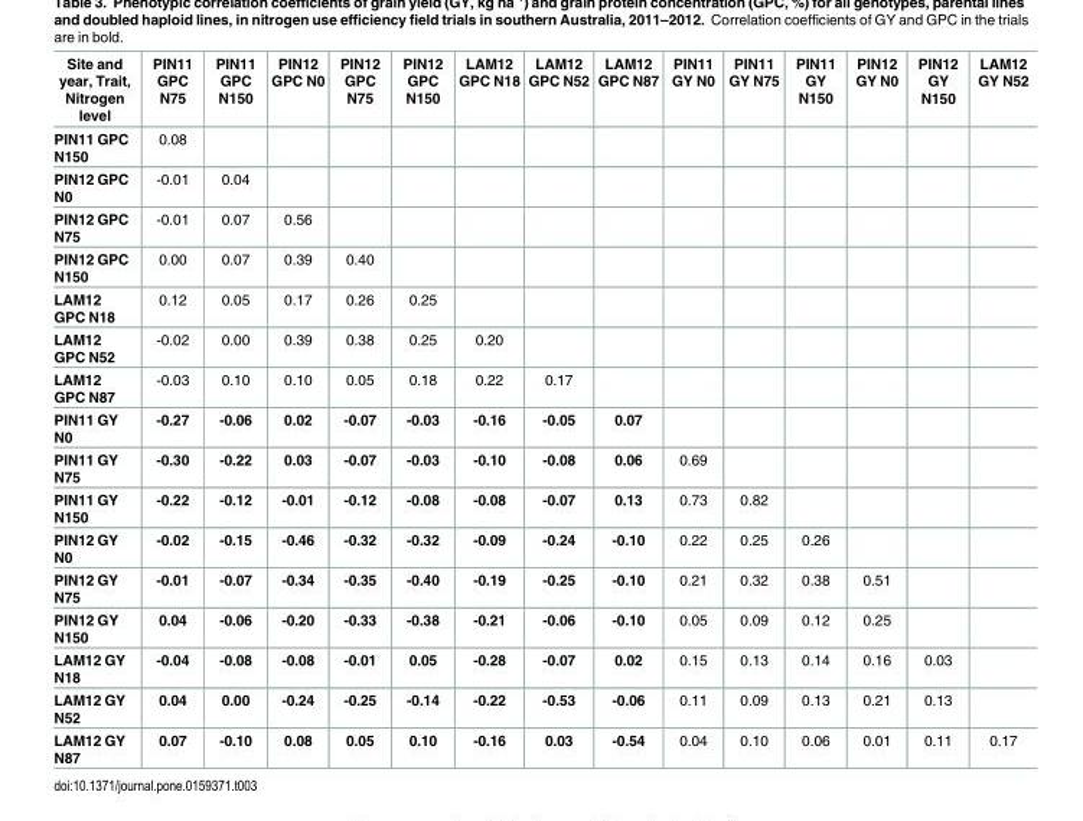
<table><thead><tr><td>Site and year, Trait, Nitrogen level</td><td>PIN11 GPC N75</td><td>PIN11 GPC N150</td><td>PIN12 GPC N0</td><td>PIN12 GPC N75</td><td>PIN12 GPC N150</td><td>LAM12 GPC N18</td><td>LAM12 GPC N52</td><td>LAM12 GPC N87</td><td>PIN11 GY N0</td><td>PIN11 GY N75</td><td>PIN11 GY N150</td><td>PIN12 GY N0</td><td>PIN12 GY N150</td><td>LAM12 GY N52</td></tr></thead><tbody><tr><td>PIN11 GPC N150</td><td>0.08</td><td></td><td></td><td></td><td></td><td></td><td></td><td></td><td></td><td></td><td></td><td></td><td></td><td></td></tr><tr><td>PIN12 GPC N0</td><td>-0.01</td><td>0.04</td><td></td><td></td><td></td><td></td><td></td><td></td><td></td><td></td><td></td><td></td><td></td><td></td></tr><tr><td>PIN12 GPC N75</td><td>-0.01</td><td>0.07</td><td>0.56</td><td></td><td></td><td></td><td></td><td></td><td></td><td></td><td></td><td></td><td></td><td></td></tr><tr><td>PIN12 GPC N150</td><td>0.00</td><td>0.07</td><td>0.39</td><td>0.40</td><td></td><td></td><td></td><td></td><td></td><td></td><td></td><td></td><td></td><td></td></tr><tr><td>LAM12 GPC N18</td><td>0.12</td><td>0.05</td><td>0.17</td><td>0.26</td><td>0.25</td><td></td><td></td><td></td><td></td><td></td><td></td><td></td><td></td><td></td></tr><tr><td>LAM12 GPC N52</td><td>-0.02</td><td>0.00</td><td>0.39</td><td>0.38</td><td>0.25</td><td>0.20</td><td></td><td></td><td></td><td></td><td></td><td></td><td></td><td></td></tr><tr><td>LAM12 GPC N87</td><td>-0.03</td><td>0.10</td><td>0.10</td><td>0.05</td><td>0.18</td><td>0.22</td><td>0.17</td><td></td><td></td><td></td><td></td><td></td><td></td><td></td></tr><tr><td>PIN11 GY N0</td><td>-0.27</td><td>-0.06</td><td>0.02</td><td>-0.07</td><td>-0.03</td><td>-0.16</td><td>-0.05</td><td>0.07</td><td></td><td></td><td></td><td></td><td></td><td></td></tr><tr><td>PIN11 GY N75</td><td>-0.30</td><td>-0.22</td><td>0.03</td><td>-0.07</td><td>-0.03</td><td>-0.10</td><td>-0.08</td><td>0.06</td><td>0.69</td><td></td><td></td><td></td><td></td><td></td></tr><tr><td>PIN11 GY N150</td><td>-0.22</td><td>-0.12</td><td>-0.01</td><td>-0.12</td><td>-0.08</td><td>-0.08</td><td>-0.07</td><td>0.13</td><td>0.73</td><td>0.82</td><td></td><td></td><td></td><td></td></tr><tr><td>PIN12 GY N0</td><td>-0.02</td><td>-0.15</td><td>-0.46</td><td>-0.32</td><td>-0.32</td><td>-0.09</td><td>-0.24</td><td>-0.10</td><td>0.22</td><td>0.25</td><td>0.26</td><td></td><td></td><td></td></tr><tr><td>PIN12 GY N75</td><td>-0.01</td><td>-0.07</td><td>-0.34</td><td>-0.35</td><td>-0.40</td><td>-0.19</td><td>-0.25</td><td>-0.10</td><td>0.21</td><td>0.32</td><td>0.38</td><td>0.51</td><td></td><td></td></tr><tr><td>PIN12 GY N150</td><td>0.04</td><td>-0.06</td><td>-0.20</td><td>-0.33</td><td>-0.38</td><td>-0.21</td><td>-0.06</td><td>-0.10</td><td>0.05</td><td>0.09</td><td>0.12</td><td>0.25</td><td></td><td></td></tr><tr><td>LAM12 GY N18</td><td>-0.04</td><td>-0.08</td><td>-0.08</td><td>-0.01</td><td>0.05</td><td>-0.28</td><td>-0.07</td><td>0.02</td><td>0.15</td><td>0.13</td><td>0.14</td><td>0.16</td><td>0.03</td><td></td></tr><tr><td>LAM12 GY N52</td><td>0.04</td><td>0.00</td><td>-0.24</td><td>-0.25</td><td>-0.14</td><td>-0.22</td><td>-0.53</td><td>-0.06</td><td>0.11</td><td>0.09</td><td>0.13</td><td>0.21</td><td>0.13</td><td></td></tr><tr><td>LAM12 GY N87</td><td>0.07</td><td>-0.10</td><td>0.08</td><td>0.05</td><td>0.10</td><td>-0.16</td><td>0.03</td><td>-0.54</td><td>0.04</td><td>0.10</td><td>0.06</td><td>0.01</td><td>0.11</td><td>0.17</td></tr></tbody></table>